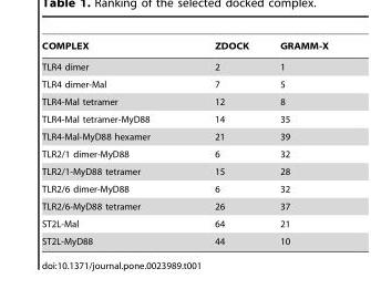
<table><thead><tr><td>COMPLEX</td><td>ZDOCK</td><td>GRAMM-X</td></tr></thead><tbody><tr><td>TLR4 dimer</td><td>2</td><td>1</td></tr><tr><td>TLR4 dimer-Mal</td><td>7</td><td>5</td></tr><tr><td>TLR4-Mal tetramer</td><td>12</td><td>8</td></tr><tr><td>TLR4-Mal tetramer-MyD88</td><td>14</td><td>35</td></tr><tr><td>TLR4-Mal-MyD88 hexamer</td><td>21</td><td>39</td></tr><tr><td>TLR2/1 dimer-MyD88</td><td>6</td><td>32</td></tr><tr><td>TLR2/1-MyD88 tetramer</td><td>15</td><td>28</td></tr><tr><td>TLR2/6 dimer-MyD88</td><td>6</td><td>32</td></tr><tr><td>TLR2/6-MyD88 tetramer</td><td>26</td><td>37</td></tr><tr><td>ST2L-Mal</td><td>64</td><td>21</td></tr><tr><td>ST2L-MyD88</td><td>44</td><td>10</td></tr></tbody></table>